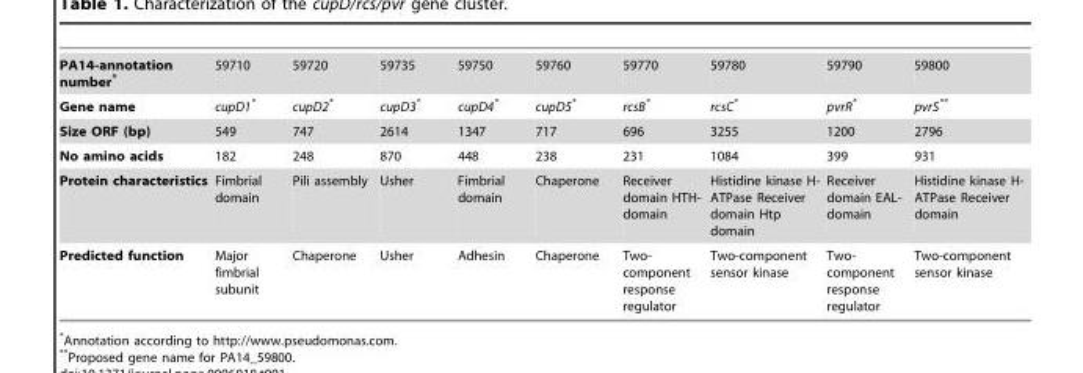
<table><tbody><tr><td>PA14-annotation number*</td><td>59710</td><td>59720</td><td>59735</td><td>59750</td><td>59760</td><td>59770</td><td>59780</td><td>59790</td><td>59800</td></tr><tr><td>Gene name</td><td>cupD1*</td><td>cupD2*</td><td>cupD3*</td><td>cupD4*</td><td>cupD5*</td><td>rcsB*</td><td>rcsC*</td><td>pvrR*</td><td>pvrS**</td></tr><tr><td>Size ORF (bp)</td><td>549</td><td>747</td><td>2614</td><td>1347</td><td>717</td><td>696</td><td>3255</td><td>1200</td><td>2796</td></tr><tr><td>No amino acids</td><td>182</td><td>248</td><td>870</td><td>448</td><td>238</td><td>231</td><td>1084</td><td>399</td><td>931</td></tr><tr><td>Protein characteristics</td><td>Fimbrial domain</td><td>Pili assembly</td><td>Usher</td><td>Fimbrial domain</td><td>Chaperone</td><td>Receiver domain HTH- domain</td><td>Histidine kinase H- ATPase Receiver domain Htp domain</td><td>Receiver domain EAL- domain</td><td>Histidine kinase H- ATPase Receiver domain</td></tr><tr><td>Predicted function</td><td>Major fimbrial subunit</td><td>Chaperone</td><td>Usher</td><td>Adhesin</td><td>Chaperone</td><td>Two- component response regulator</td><td>Two-component sensor kinase</td><td>Two- component response regulator</td><td>Two-component sensor kinase</td></tr></tbody></table>